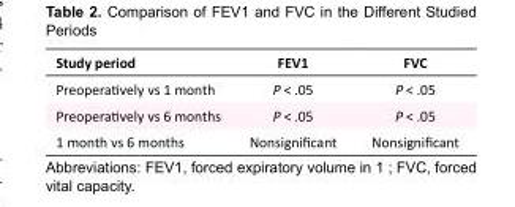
<table><tbody><tr><td>Study period</td><td>FEV1</td><td>FVC</td></tr><tr><td>Preoperatively vs 1 month</td><td>P &lt; .05</td><td>P &lt; .05</td></tr><tr><td>Preoperatively vs 6 months</td><td>P &lt; .05</td><td>P &lt; .05</td></tr><tr><td>1 month vs 6 months</td><td>Nonsignificant</td><td>Nonsignificant</td></tr></tbody></table>